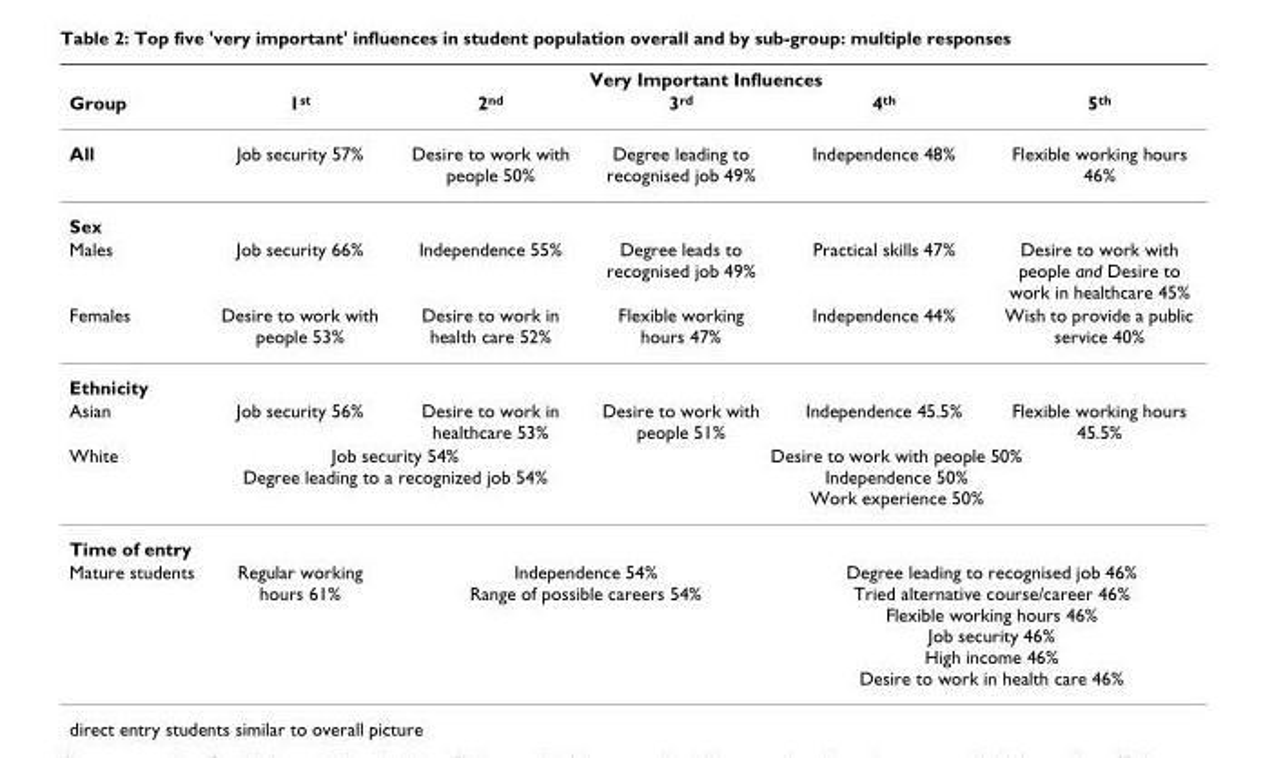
<table><thead><tr><td rowspan="2">Group</td><td colspan="5">Very Important Influences</td></tr><tr><td>1<sup>st</sup></td><td>2<sup>nd</sup></td><td>3<sup>rd</sup></td><td>4<sup>th</sup></td><td>5<sup>th</sup></td></tr></thead><tbody><tr><td>All</td><td>Job security 57%</td><td>Desire to work with people 50%</td><td>Degree leading to recognised job 49%</td><td>Independence 48%</td><td>Flexible working hours 46%</td></tr><tr><td colspan="6">Sex</td></tr><tr><td>Males</td><td>Job security 66%</td><td>Independence 55%</td><td>Degree leads to recognised job 49%</td><td>Practical skills 47%</td><td>Desire to work with people and Desire to work in healthcare 45%</td></tr><tr><td>Females</td><td>Desire to work with people 53%</td><td>Desire to work in health care 52%</td><td>Flexible working hours 47%</td><td>Independence 44%</td><td>Wish to provide a public service 40%</td></tr><tr><td colspan="6">Ethnicity</td></tr><tr><td>Asian</td><td>Job security 56%</td><td>Desire to work in healthcare 53%</td><td>Desire to work with people 51%</td><td>Independence 45.5%</td><td>Flexible working hours 45.5%</td></tr><tr><td>White</td><td colspan="2">Job security 54% Degree leading to a recognized job 54%</td><td colspan="3">Desire to work with people 50% Independence 50% Work experience 50%</td></tr><tr><td colspan="6">Time of entry</td></tr><tr><td>Mature students</td><td>Regular working hours 61%</td><td colspan="2">Independence 54% Range of possible careers 54%</td><td colspan="2">Degree leading to recognised job 46% Tried alternative course/career 46% Flexible working hours 46% Job security 46% High income 46% Desire to work in health care 46%</td></tr></tbody></table>